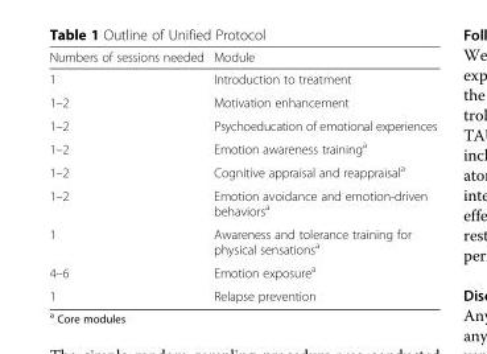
<table><thead><tr><td>Numbers of sessions needed</td><td>Module</td></tr></thead><tbody><tr><td>1</td><td>Introduction to treatment</td></tr><tr><td>1–2</td><td>Motivation enhancement</td></tr><tr><td>1–2</td><td>Psychoeducation of emotional experiences</td></tr><tr><td>1–2</td><td>Emotion awareness training<sup>a</sup></td></tr><tr><td>1–2</td><td>Cognitive appraisal and reappraisal<sup>a</sup></td></tr><tr><td>1–2</td><td>Emotion avoidance and emotion-driven behaviors<sup>a</sup></td></tr><tr><td>1</td><td>Awareness and tolerance training for physical sensations<sup>a</sup></td></tr><tr><td>4–6</td><td>Emotion exposure<sup>a</sup></td></tr><tr><td>1</td><td>Relapse prevention</td></tr></tbody></table>